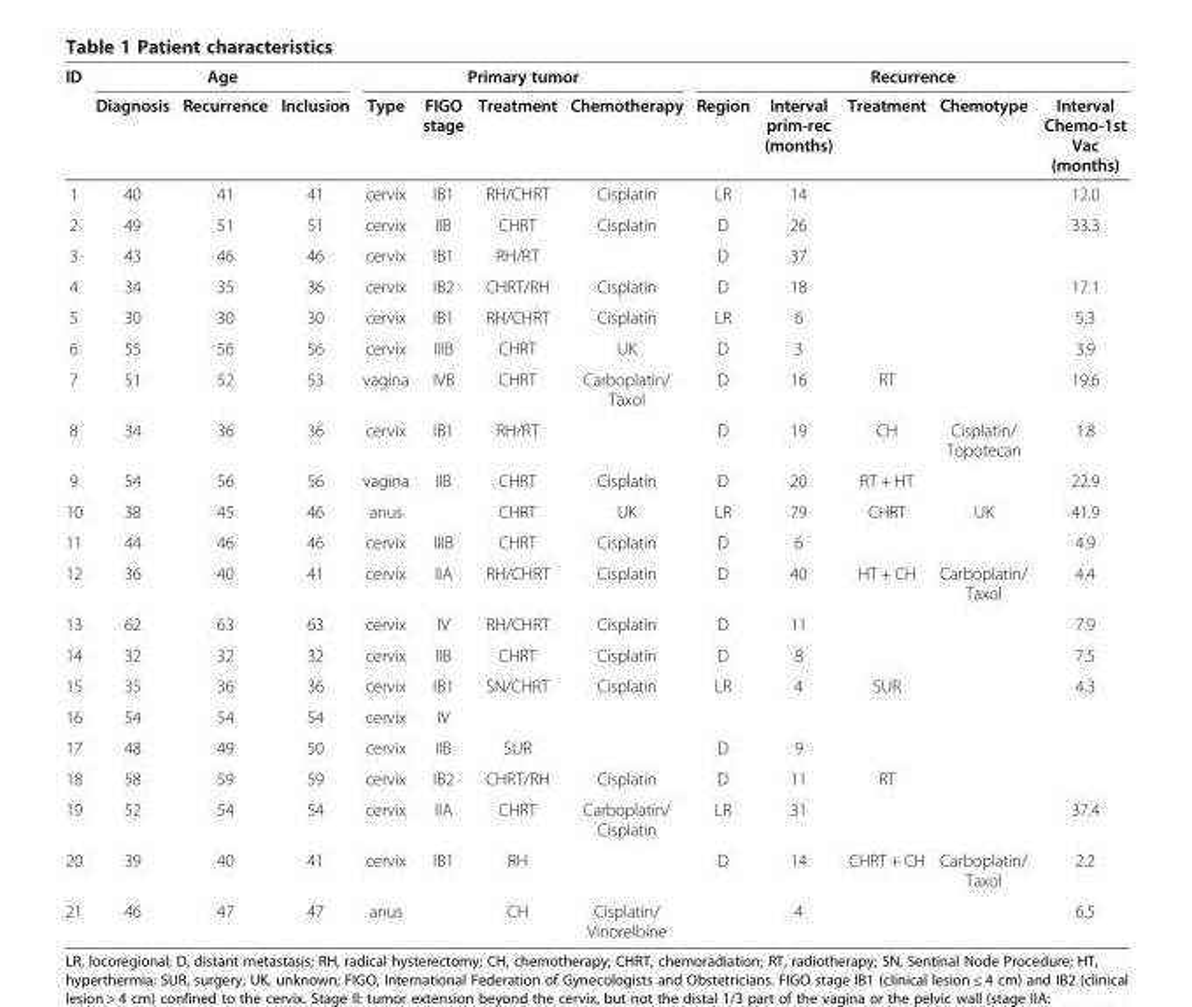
<table><thead><tr><td rowspan="2">ID</td><td colspan="3">Age</td><td colspan="4">Primary tumor</td><td colspan="5">Recurrence</td></tr><tr><td>Diagnosis</td><td>Recurrence</td><td>Inclusion</td><td>Type</td><td>FIGO stage</td><td>Treatment</td><td>Chemotherapy</td><td>Region</td><td>Interval prim-rec (months)</td><td>Treatment</td><td>Chemotype</td><td>Interval Chemo-1st Vac (months)</td></tr></thead><tbody><tr><td>1</td><td>40</td><td>41</td><td>41</td><td>cervix</td><td>IB1</td><td>RH/CHRT</td><td>Cisplatin</td><td>LR</td><td>14</td><td></td><td></td><td>12.0</td></tr><tr><td>2</td><td>49</td><td>51</td><td>51</td><td>cervix</td><td>IIB</td><td>CHRT</td><td>Cisplatin</td><td>D</td><td>26</td><td></td><td></td><td>33.3</td></tr><tr><td>3</td><td>43</td><td>46</td><td>46</td><td>cervix</td><td>IB1</td><td>RH/RT</td><td></td><td>D</td><td>37</td><td></td><td></td><td></td></tr><tr><td>4</td><td>34</td><td>35</td><td>36</td><td>cervix</td><td>IB2</td><td>CHRT/RH</td><td>Cisplatin</td><td>D</td><td>18</td><td></td><td></td><td>17.1</td></tr><tr><td>5</td><td>30</td><td>30</td><td>30</td><td>cervix</td><td>IB1</td><td>RH/CHRT</td><td>Cisplatin</td><td>LR</td><td>6</td><td></td><td></td><td>5.3</td></tr><tr><td>6</td><td>55</td><td>56</td><td>56</td><td>cervix</td><td>IIIB</td><td>CHRT</td><td>UK</td><td>D</td><td>3</td><td></td><td></td><td>3.9</td></tr><tr><td>7</td><td>51</td><td>52</td><td>53</td><td>vagina</td><td>IVB</td><td>CHRT</td><td>Carboplatin/ Taxol</td><td>D</td><td>16</td><td>RT</td><td></td><td>19.6</td></tr><tr><td>8</td><td>34</td><td>36</td><td>36</td><td>cervix</td><td>IB1</td><td>RH/RT</td><td></td><td>D</td><td>19</td><td>CH</td><td>Cisplatin/ Topotecan</td><td>1.8</td></tr><tr><td>9</td><td>54</td><td>56</td><td>56</td><td>vagina</td><td>IIB</td><td>CHRT</td><td>Cisplatin</td><td>D</td><td>20</td><td>RT + HT</td><td></td><td>22.9</td></tr><tr><td>10</td><td>38</td><td>45</td><td>46</td><td>anus</td><td></td><td>CHRT</td><td>UK</td><td>LR</td><td>79</td><td>CHRT</td><td>UK</td><td>41.9</td></tr><tr><td>11</td><td>44</td><td>46</td><td>46</td><td>cervix</td><td>IIIB</td><td>CHRT</td><td>Cisplatin</td><td>D</td><td>6</td><td></td><td></td><td>4.9</td></tr><tr><td>12</td><td>36</td><td>40</td><td>41</td><td>cervix</td><td>IIA</td><td>RH/CHRT</td><td>Cisplatin</td><td>D</td><td>40</td><td>HT + CH</td><td>Carboplatin/ Taxol</td><td>4.4</td></tr><tr><td>13</td><td>62</td><td>63</td><td>63</td><td>cervix</td><td>IV</td><td>RH/CHRT</td><td>Cisplatin</td><td>D</td><td>11</td><td></td><td></td><td>7.9</td></tr><tr><td>14</td><td>32</td><td>32</td><td>32</td><td>cervix</td><td>IIB</td><td>CHRT</td><td>Cisplatin</td><td>D</td><td>8</td><td></td><td></td><td>7.5</td></tr><tr><td>15</td><td>35</td><td>36</td><td>36</td><td>cervix</td><td>IB1</td><td>SN/CHRT</td><td>Cisplatin</td><td>LR</td><td>4</td><td>SUR</td><td></td><td>4.3</td></tr><tr><td>16</td><td>54</td><td>54</td><td>54</td><td>cervix</td><td>IV</td><td></td><td></td><td></td><td></td><td></td><td></td><td></td></tr><tr><td>17</td><td>48</td><td>49</td><td>50</td><td>cervix</td><td>IIB</td><td>SUR</td><td></td><td>D</td><td>9</td><td></td><td></td><td></td></tr><tr><td>18</td><td>58</td><td>59</td><td>59</td><td>cervix</td><td>IB2</td><td>CHRT/RH</td><td>Cisplatin</td><td>D</td><td>11</td><td>RT</td><td></td><td></td></tr><tr><td>19</td><td>52</td><td>54</td><td>54</td><td>cervix</td><td>IIA</td><td>CHRT</td><td>Carboplatin/ Cisplatin</td><td>LR</td><td>31</td><td></td><td></td><td>37.4</td></tr><tr><td>20</td><td>39</td><td>40</td><td>41</td><td>cervix</td><td>IB1</td><td>RH</td><td></td><td>D</td><td>14</td><td>CHRT + CH</td><td>Carboplatin/ Taxol</td><td>2.2</td></tr><tr><td>21</td><td>46</td><td>47</td><td>47</td><td>anus</td><td></td><td>CH</td><td>Cisplatin/ Vinorelbine</td><td></td><td>4</td><td></td><td></td><td>6.5</td></tr></tbody></table>